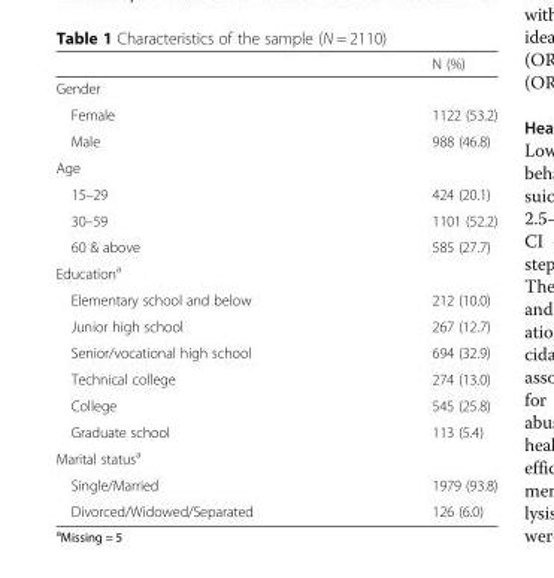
<table><thead><tr><td></td><td>N (%)</td></tr></thead><tbody><tr><td colspan="2">Gender</td></tr><tr><td>Female</td><td>1122 (53.2)</td></tr><tr><td>Male</td><td>988 (46.8)</td></tr><tr><td colspan="2">Age</td></tr><tr><td>15–29</td><td>424 (20.1)</td></tr><tr><td>30–59</td><td>1101 (52.2)</td></tr><tr><td>60 &amp; above</td><td>585 (27.7)</td></tr><tr><td colspan="2">Education<sup>a</sup></td></tr><tr><td>Elementary school and below</td><td>212 (10.0)</td></tr><tr><td>Junior high school</td><td>267 (12.7)</td></tr><tr><td>Senior/vocational high school</td><td>694 (32.9)</td></tr><tr><td>Technical college</td><td>274 (13.0)</td></tr><tr><td>College</td><td>545 (25.8)</td></tr><tr><td>Graduate school</td><td>113 (5.4)</td></tr><tr><td colspan="2">Marital status<sup>a</sup></td></tr><tr><td>Single/Married</td><td>1979 (93.8)</td></tr><tr><td>Divorced/Widowed/Separated</td><td>126 (6.0)</td></tr></tbody></table>